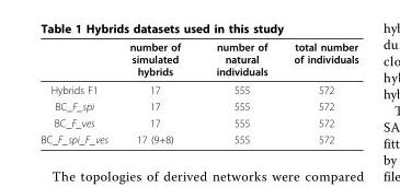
<table><thead><tr><td></td><td>number of simulated hybrids</td><td>number of natural individuals</td><td>total number of individuals</td></tr></thead><tbody><tr><td>Hybrids F1</td><td>17</td><td>555</td><td>572</td></tr><tr><td>BC_F_spi</td><td>17</td><td>555</td><td>572</td></tr><tr><td>BC_F_ves</td><td>17</td><td>555</td><td>572</td></tr><tr><td>BC_F_spi_F_ves</td><td>17 (9+8)</td><td>555</td><td>572</td></tr></tbody></table>